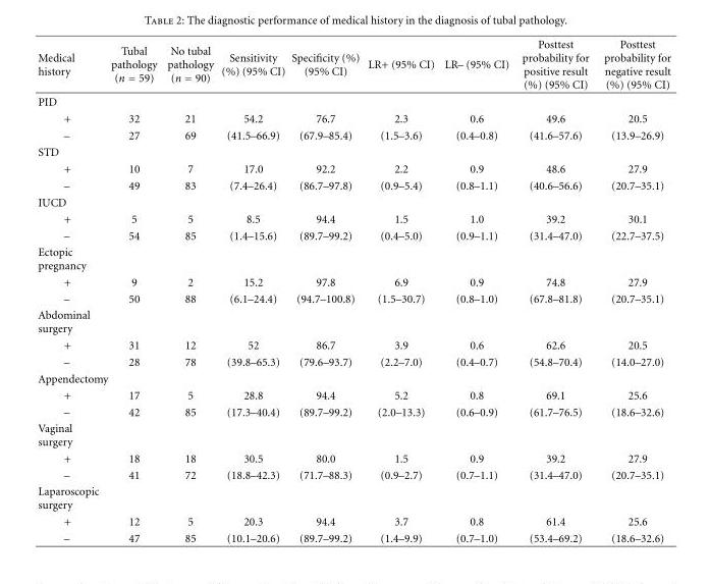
<table><thead><tr><td>Medical history</td><td>Tubal pathology (n = 59)</td><td>No tubal pathology (n = 90)</td><td>Sensitivity (%) (95% CI)</td><td>Specificity (%) (95% CI)</td><td>LR+ (95% CI)</td><td>LR– (95% CI)</td><td>Posttest probability for positive result (%) (95% CI)</td><td>Posttest probability for negative result (%) (95% CI)</td></tr></thead><tbody><tr><td colspan="9">PID</td></tr><tr><td>+</td><td>32</td><td>21</td><td>54.2</td><td>76.7</td><td>2.3</td><td>0.6</td><td>49.6</td><td>20.5</td></tr><tr><td>–</td><td>27</td><td>69</td><td>(41.5–66.9)</td><td>(67.9–85.4)</td><td>(1.5–3.6)</td><td>(0.4–0.8)</td><td>(41.6–57.6)</td><td>(13.9–26.9)</td></tr><tr><td colspan="9">STD</td></tr><tr><td>+</td><td>10</td><td>7</td><td>17.0</td><td>92.2</td><td>2.2</td><td>0.9</td><td>48.6</td><td>27.9</td></tr><tr><td>–</td><td>49</td><td>83</td><td>(7.4–26.4)</td><td>(86.7–97.8)</td><td>(0.9–5.4)</td><td>(0.8–1.1)</td><td>(40.6–56.6)</td><td>(20.7–35.1)</td></tr><tr><td colspan="9">IUCD</td></tr><tr><td>+</td><td>5</td><td>5</td><td>8.5</td><td>94.4</td><td>1.5</td><td>1.0</td><td>39.2</td><td>30.1</td></tr><tr><td>–</td><td>54</td><td>85</td><td>(1.4–15.6)</td><td>(89.7–99.2)</td><td>(0.4–5.0)</td><td>(0.9–1.1)</td><td>(31.4–47.0)</td><td>(22.7–37.5)</td></tr><tr><td colspan="9">Ectopic pregnancy</td></tr><tr><td>+</td><td>9</td><td>2</td><td>15.2</td><td>97.8</td><td>6.9</td><td>0.9</td><td>74.8</td><td>27.9</td></tr><tr><td>–</td><td>50</td><td>88</td><td>(6.1–24.4)</td><td>(94.7–100.8)</td><td>(1.5–30.7)</td><td>(0.8–1.0)</td><td>(67.8–81.8)</td><td>(20.7–35.1)</td></tr><tr><td colspan="9">Abdominal surgery</td></tr><tr><td>+</td><td>31</td><td>12</td><td>52</td><td>86.7</td><td>3.9</td><td>0.6</td><td>62.6</td><td>20.5</td></tr><tr><td>–</td><td>28</td><td>78</td><td>(39.8–65.3)</td><td>(79.6–93.7)</td><td>(2.2–7.0)</td><td>(0.4–0.7)</td><td>(54.8–70.4)</td><td>(14.0–27.0)</td></tr><tr><td colspan="9">Appendectomy</td></tr><tr><td>+</td><td>17</td><td>5</td><td>28.8</td><td>94.4</td><td>5.2</td><td>0.8</td><td>69.1</td><td>25.6</td></tr><tr><td>–</td><td>42</td><td>85</td><td>(17.3–40.4)</td><td>(89.7–99.2)</td><td>(2.0–13.3)</td><td>(0.6–0.9)</td><td>(61.7–76.5)</td><td>(18.6–32.6)</td></tr><tr><td colspan="9">Vaginal surgery</td></tr><tr><td>+</td><td>18</td><td>18</td><td>30.5</td><td>80.0</td><td>1.5</td><td>0.9</td><td>39.2</td><td>27.9</td></tr><tr><td>–</td><td>41</td><td>72</td><td>(18.8–42.3)</td><td>(71.7–88.3)</td><td>(0.9–2.7)</td><td>(0.7–1.1)</td><td>(31.4–47.0)</td><td>(20.7–35.1)</td></tr><tr><td colspan="9">Laparoscopic surgery</td></tr><tr><td>+</td><td>12</td><td>5</td><td>20.3</td><td>94.4</td><td>3.7</td><td>0.8</td><td>61.4</td><td>25.6</td></tr><tr><td>–</td><td>47</td><td>85</td><td>(10.1–20.6)</td><td>(89.7–99.2)</td><td>(1.4–9.9)</td><td>(0.7–1.0)</td><td>(53.4–69.2)</td><td>(18.6–32.6)</td></tr></tbody></table>